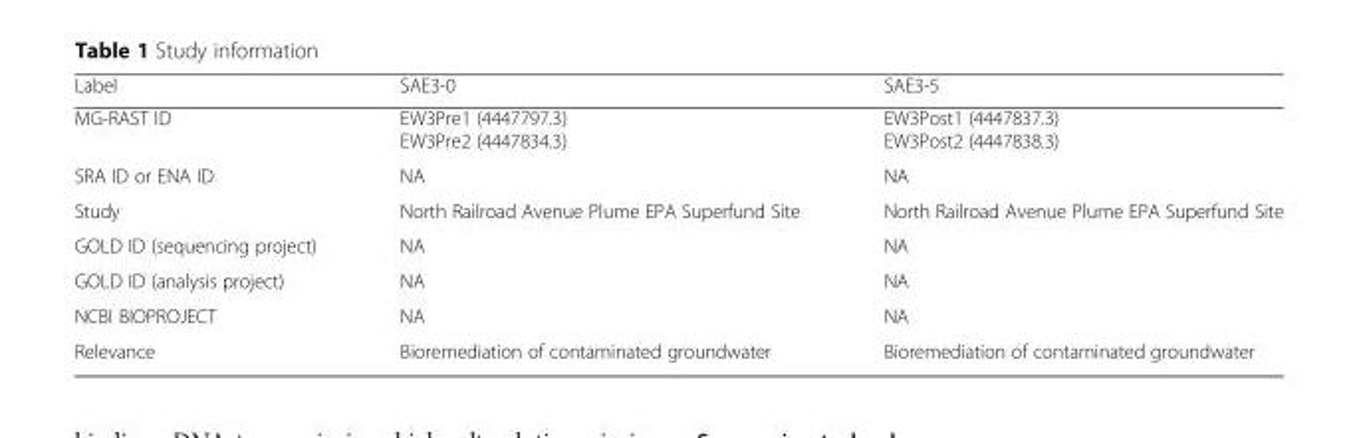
<table><thead><tr><td>Label</td><td>SAE3-0</td><td>SAE3-5</td></tr></thead><tbody><tr><td>MG-RAST ID</td><td>EW3Pre1 (4447797.3) EW3Pre2 (4447834.3)</td><td>EW3Post1 (4447837.3) EW3Post2 (4447838.3)</td></tr><tr><td>SRA ID or ENA ID</td><td>NA</td><td>NA</td></tr><tr><td>Study</td><td>North Railroad Avenue Plume EPA Superfund Site</td><td>North Railroad Avenue Plume EPA Superfund Site</td></tr><tr><td>GOLD ID (sequencing project)</td><td>NA</td><td>NA</td></tr><tr><td>GOLD ID (analysis project)</td><td>NA</td><td>NA</td></tr><tr><td>NCBI BIOPROJECT</td><td>NA</td><td>NA</td></tr><tr><td>Relevance</td><td>Bioremediation of contaminated groundwater</td><td>Bioremediation of contaminated groundwater</td></tr></tbody></table>